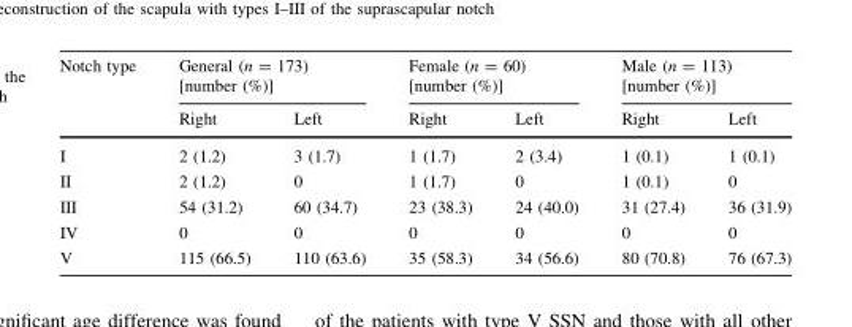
<table><thead><tr><td rowspan="2">Notch type</td><td colspan="2">General (n = 173) [number (%)]</td><td colspan="2">Female (n = 60) [number (%)]</td><td colspan="2">Male (n = 113) [number (%)]</td></tr><tr><td>Right</td><td>Left</td><td>Right</td><td>Left</td><td>Right</td><td>Left</td></tr></thead><tbody><tr><td>I</td><td>2 (1.2)</td><td>3 (1.7)</td><td>1 (1.7)</td><td>2 (3.4)</td><td>1 (0.1)</td><td>1 (0.1)</td></tr><tr><td>II</td><td>2 (1.2)</td><td>0</td><td>1 (1.7)</td><td>0</td><td>1 (0.1)</td><td>0</td></tr><tr><td>III</td><td>54 (31.2)</td><td>60 (34.7)</td><td>23 (38.3)</td><td>24 (40.0)</td><td>31 (27.4)</td><td>36 (31.9)</td></tr><tr><td>IV</td><td>0</td><td>0</td><td>0</td><td>0</td><td>0</td><td>0</td></tr><tr><td>V</td><td>115 (66.5)</td><td>110 (63.6)</td><td>35 (58.3)</td><td>34 (56.6)</td><td>80 (70.8)</td><td>76 (67.3)</td></tr></tbody></table>